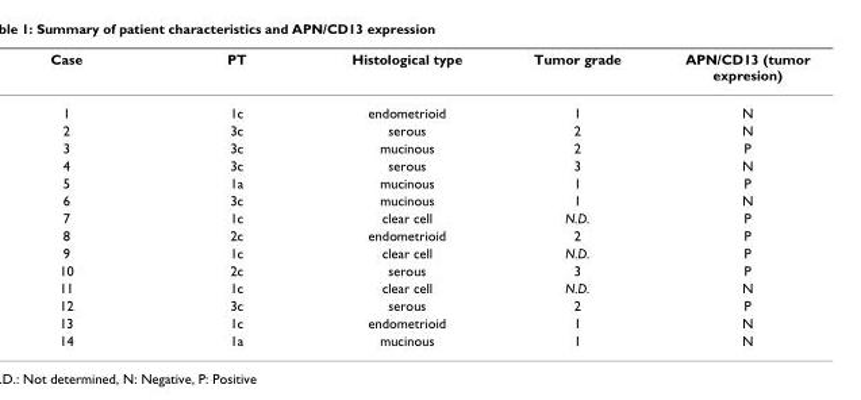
<table><thead><tr><td>Case</td><td>PT</td><td>Histological type</td><td>Tumor grade</td><td>APN/CD13 (tumor expresion)</td></tr></thead><tbody><tr><td>1</td><td>1c</td><td>endometrioid</td><td>1</td><td>N</td></tr><tr><td>2</td><td>3c</td><td>serous</td><td>2</td><td>N</td></tr><tr><td>3</td><td>3c</td><td>mucinous</td><td>2</td><td>P</td></tr><tr><td>4</td><td>3c</td><td>serous</td><td>3</td><td>N</td></tr><tr><td>5</td><td>1a</td><td>mucinous</td><td>1</td><td>P</td></tr><tr><td>6</td><td>3c</td><td>mucinous</td><td>1</td><td>N</td></tr><tr><td>7</td><td>1c</td><td>clear cell</td><td>N.D.</td><td>P</td></tr><tr><td>8</td><td>2c</td><td>endometrioid</td><td>2</td><td>P</td></tr><tr><td>9</td><td>1c</td><td>clear cell</td><td>N.D.</td><td>P</td></tr><tr><td>10</td><td>2c</td><td>serous</td><td>3</td><td>P</td></tr><tr><td>11</td><td>1c</td><td>clear cell</td><td>N.D.</td><td>N</td></tr><tr><td>12</td><td>3c</td><td>serous</td><td>2</td><td>P</td></tr><tr><td>13</td><td>1c</td><td>endometrioid</td><td>1</td><td>N</td></tr><tr><td>14</td><td>1a</td><td>mucinous</td><td>1</td><td>N</td></tr></tbody></table>